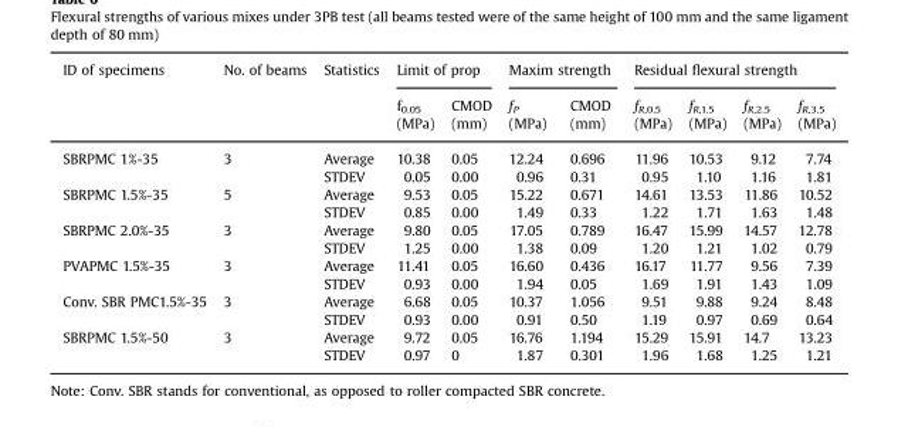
<table><thead><tr><td rowspan="3">ID of specimens</td><td rowspan="3">No. of beams</td><td rowspan="3">Statistics</td><td colspan="2">Limit of prop</td><td colspan="2">Maxim strength</td><td colspan="4">Residual flexural strength</td></tr><tr><td rowspan="2">f<sub>0.05</sub> (MPa)</td><td rowspan="2">CMOD (mm)</td><td rowspan="2">f<sub>P</sub> (MPa)</td><td rowspan="2">CMOD (mm)</td><td rowspan="2">f<sub>R,0.5</sub> (MPa)</td><td rowspan="2">f<sub>R,1.5</sub> (MPa)</td><td rowspan="2">f<sub>R,2.5</sub> (MPa)</td><td rowspan="2">f<sub>R,3.5</sub> (MPa)</td></tr><tr></tr></thead><tbody><tr><td rowspan="2">SBRPMC 1%-35</td><td rowspan="2">3</td><td>Average</td><td>10.38</td><td>0.05</td><td>12.24</td><td>0.696</td><td>11.96</td><td>10.53</td><td>9.12</td><td>7.74</td></tr><tr><td>STDEV</td><td>0.05</td><td>0.00</td><td>0.96</td><td>0.31</td><td>0.95</td><td>1.10</td><td>1.16</td><td>1.81</td></tr><tr><td rowspan="2">SBRPMC 1.5%-35</td><td rowspan="2">5</td><td>Average</td><td>9.53</td><td>0.05</td><td>15.22</td><td>0.671</td><td>14.61</td><td>13.53</td><td>11.86</td><td>10.52</td></tr><tr><td>STDEV</td><td>0.85</td><td>0.00</td><td>1.49</td><td>0.33</td><td>1.22</td><td>1.71</td><td>1.63</td><td>1.48</td></tr><tr><td rowspan="2">SBRPMC 2.0%-35</td><td rowspan="2">3</td><td>Average</td><td>9.80</td><td>0.05</td><td>17.05</td><td>0.789</td><td>16.47</td><td>15.99</td><td>14.57</td><td>12.78</td></tr><tr><td>STDEV</td><td>1.25</td><td>0.00</td><td>1.38</td><td>0.09</td><td>1.20</td><td>1.21</td><td>1.02</td><td>0.79</td></tr><tr><td rowspan="2">PVAPMC 1.5%-35</td><td rowspan="2">3</td><td>Average</td><td>11.41</td><td>0.05</td><td>16.60</td><td>0.436</td><td>16.17</td><td>11.77</td><td>9.56</td><td>7.39</td></tr><tr><td>STDEV</td><td>0.93</td><td>0.00</td><td>1.94</td><td>0.05</td><td>1.69</td><td>1.91</td><td>1.43</td><td>1.09</td></tr><tr><td rowspan="2">Conv. SBR PMC1.5%-35</td><td rowspan="2">3</td><td>Average</td><td>6.68</td><td>0.05</td><td>10.37</td><td>1.056</td><td>9.51</td><td>9.88</td><td>9.24</td><td>8.48</td></tr><tr><td>STDEV</td><td>0.93</td><td>0.00</td><td>0.91</td><td>0.50</td><td>1.19</td><td>0.97</td><td>0.69</td><td>0.64</td></tr><tr><td rowspan="2">SBRPMC 1.5%-50</td><td rowspan="2">3</td><td>Average</td><td>9.72</td><td>0.05</td><td>16.76</td><td>1.194</td><td>15.29</td><td>15.91</td><td>14.7</td><td>13.23</td></tr><tr><td>STDEV</td><td>0.97</td><td>0</td><td>1.87</td><td>0.301</td><td>1.96</td><td>1.68</td><td>1.25</td><td>1.21</td></tr></tbody></table>